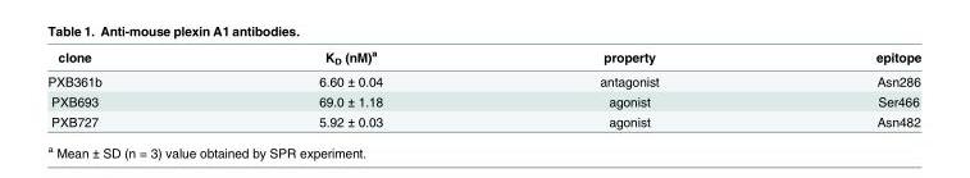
<table><thead><tr><td>clone</td><td>K<sub>D</sub> (nM)<sup>a</sup></td><td>property</td><td>epitope</td></tr></thead><tbody><tr><td>PXB361b</td><td>6.60 ± 0.04</td><td>antagonist</td><td>Asn286</td></tr><tr><td>PXB693</td><td>69.0 ± 1.18</td><td>agonist</td><td>Ser466</td></tr><tr><td>PXB727</td><td>5.92 ± 0.03</td><td>agonist</td><td>Asn482</td></tr></tbody></table>